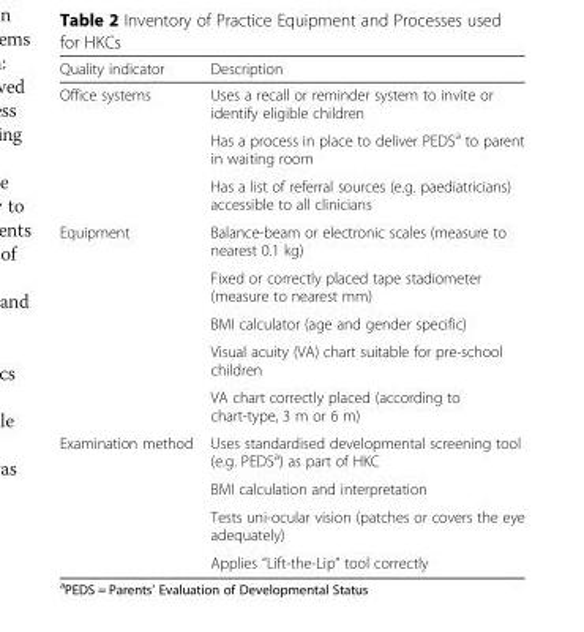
<table><thead><tr><td>Quality indicator</td><td>Description</td></tr></thead><tbody><tr><td rowspan="3">Office systems</td><td>Uses a recall or reminder system to invite or identify eligible children</td></tr><tr><td>Has a process in place to deliver PEDS<sup>a</sup> to parent in waiting room</td></tr><tr><td>Has a list of referral sources (e.g. paediatricians) accessible to all clinicians</td></tr><tr><td rowspan="5">Equipment</td><td>Balance-beam or electronic scales (measure to nearest 0.1 kg)</td></tr><tr><td>Fixed or correctly placed tape stadiometer (measure to nearest mm)</td></tr><tr><td>BMI calculator (age and gender specific)</td></tr><tr><td>Visual acuity (VA) chart suitable for pre-school children</td></tr><tr><td>VA chart correctly placed (according to chart-type, 3 m or 6 m)</td></tr><tr><td rowspan="4">Examination method</td><td>Uses standardised developmental screening tool (e.g. PEDS<sup>a</sup>) as part of HKC</td></tr><tr><td>BMI calculation and interpretation</td></tr><tr><td>Tests uni-ocular vision (patches or covers the eye adequately)</td></tr><tr><td>Applies “Lift-the-Lip” tool correctly</td></tr></tbody></table>